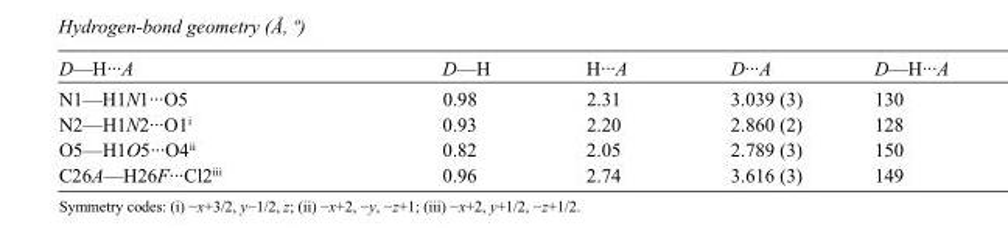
<table><tbody><tr><td>D—H···A</td><td>D—H</td><td>H···A</td><td>D···A</td><td>D—H···A</td></tr><tr><td>N1—H1N1···O5</td><td>0.98</td><td>2.31</td><td>3.039 (3)</td><td>130</td></tr><tr><td>N2—H1N2···O1<sup>i</sup></td><td>0.93</td><td>2.20</td><td>2.860 (2)</td><td>128</td></tr><tr><td>O5—H1O5···O4<sup>ii</sup></td><td>0.82</td><td>2.05</td><td>2.789 (3)</td><td>150</td></tr><tr><td>C26A—H26F···Cl2<sup>iii</sup></td><td>0.96</td><td>2.74</td><td>3.616 (3)</td><td>149</td></tr></tbody></table>